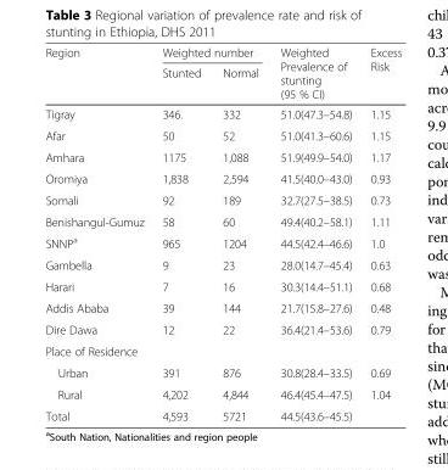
<table><thead><tr><td rowspan="2">Region</td><td colspan="2">Weighted number</td><td rowspan="2">Weighted Prevalence of stunting (95 % CI)</td><td rowspan="2">Excess Risk</td></tr><tr><td>Stunted</td><td>Normal</td></tr></thead><tbody><tr><td>Tigray</td><td>346.</td><td>332</td><td>51.0(47.3–54.8)</td><td>1.15</td></tr><tr><td>Afar</td><td>50</td><td>52</td><td>51.0(41.3–60.6)</td><td>1.15</td></tr><tr><td>Amhara</td><td>1175</td><td>1,088</td><td>51.9(49.9–54.0)</td><td>1.17</td></tr><tr><td>Oromiya</td><td>1,838</td><td>2,594</td><td>41.5(40.0–43.0)</td><td>0.93</td></tr><tr><td>Somali</td><td>92</td><td>189</td><td>32.7(27.5–38.5)</td><td>0.73</td></tr><tr><td>Benishangul-Gumuz</td><td>58</td><td>60</td><td>49.4(40.2–58.1)</td><td>1.11</td></tr><tr><td>SNNP<sup>a</sup></td><td>965</td><td>1204</td><td>44.5(42.4–46.6)</td><td>1.0</td></tr><tr><td>Gambella</td><td>9</td><td>23</td><td>28.0(14.7–45.4)</td><td>0.63</td></tr><tr><td>Harari</td><td>7</td><td>16</td><td>30.3(14.4–51.1)</td><td>0.68</td></tr><tr><td>Addis Ababa</td><td>39</td><td>144</td><td>21.7(15.8–27.6)</td><td>0.48</td></tr><tr><td>Dire Dawa</td><td>12</td><td>22</td><td>36.4(21.4–53.6)</td><td>0.79</td></tr><tr><td colspan="5">Place of Residence</td></tr><tr><td>Urban</td><td>391</td><td>876</td><td>30.8(28.4–33.5)</td><td>0.69</td></tr><tr><td>Rural</td><td>4,202</td><td>4,844</td><td>46.4(45.4–47.5)</td><td>1.04</td></tr><tr><td>Total</td><td>4,593</td><td>5721</td><td>44.5(43.6–45.5)</td><td></td></tr></tbody></table>